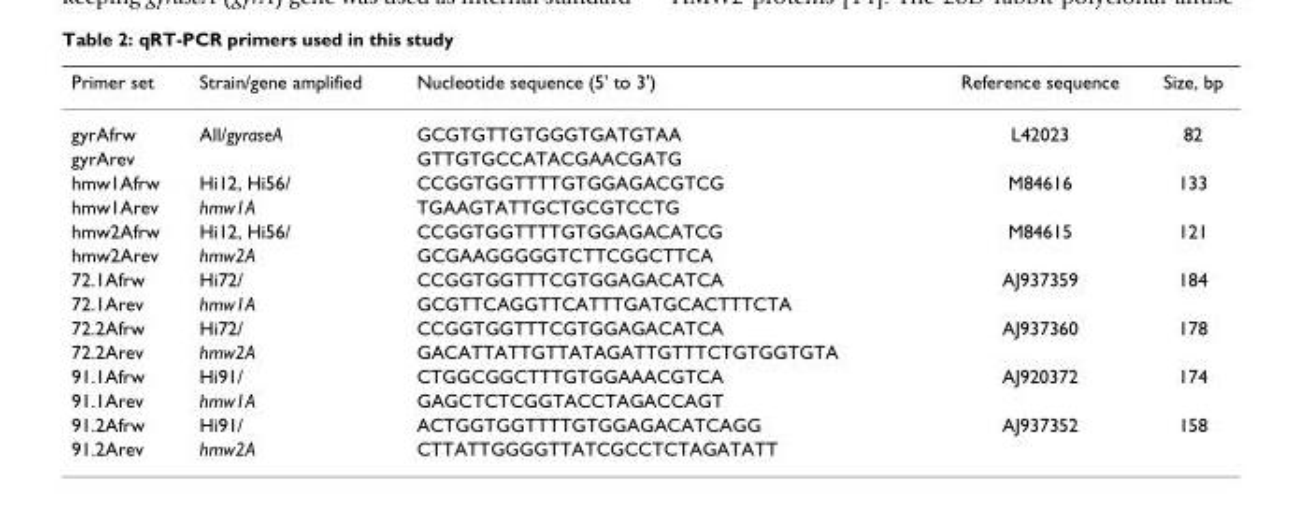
<table><thead><tr><td>Primer set</td><td>Strain/gene amplified</td><td>Nucleotide sequence (5&#x27; to 3&#x27;)</td><td>Reference sequence</td><td>Size, bp</td></tr></thead><tbody><tr><td>gyrAfrw</td><td>All/gyraseA</td><td>GCGTGTTGTGGGTGATGTAA</td><td>L42023</td><td>82</td></tr><tr><td>gyrArev</td><td></td><td>GTTGTGCCATACGAACGATG</td><td></td><td></td></tr><tr><td>hmw1Afrw</td><td>Hi12, Hi56/</td><td>CCGGTGGTTTTGTGGAGACGTCG</td><td>M84616</td><td>133</td></tr><tr><td>hmw1Arev</td><td>hmw1A</td><td>TGAAGTATTGCTGCGTCCTG</td><td></td><td></td></tr><tr><td>hmw2Afrw</td><td>Hi12, Hi56/</td><td>CCGGTGGTTTTGTGGAGACATCG</td><td>M84615</td><td>121</td></tr><tr><td>hmw2Arev</td><td>hmw2A</td><td>GCGAAGGGGGTCTTCGGCTTCA</td><td></td><td></td></tr><tr><td>72.1Afrw</td><td>Hi72/</td><td>CCGGTGGTTTCGTGGAGACATCA</td><td>AJ937359</td><td>184</td></tr><tr><td>72.1Arev</td><td>hmw1A</td><td>GCGTTCAGGTTCATTTGATGCACTTTCTA</td><td></td><td></td></tr><tr><td>72.2Afrw</td><td>Hi72/</td><td>CCGGTGGTTTCGTGGAGACATCA</td><td>AJ937360</td><td>178</td></tr><tr><td>72.2Arev</td><td>hmw2A</td><td>GACATTATTGTTATAGATTGTTTCTGTGGTGTA</td><td></td><td></td></tr><tr><td>91.1Afrw</td><td>Hi91/</td><td>CTGGCGGCTTTGTGGAAACGTCA</td><td>AJ920372</td><td>174</td></tr><tr><td>91.1Arev</td><td>hmw1A</td><td>GAGCTCTCGGTACCTAGACCAGT</td><td></td><td></td></tr><tr><td>91.2Afrw</td><td>Hi91/</td><td>ACTGGTGGTTTTGTGGAGACATCAGG</td><td>AJ937352</td><td>158</td></tr><tr><td>91.2Arev</td><td>hmw2A</td><td>CTTATTGGGGTTATCGCCTCTAGATATT</td><td></td><td></td></tr></tbody></table>